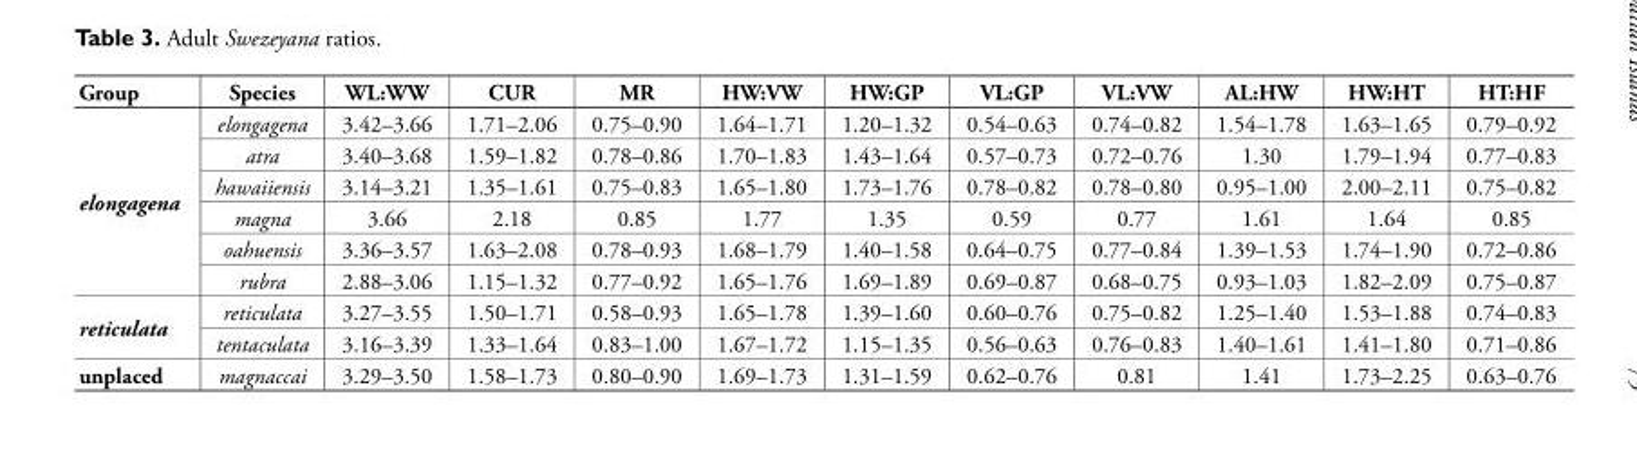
<table><thead><tr><td>Group</td><td>Species</td><td>WL:WW</td><td>CUR</td><td>MR</td><td>HW:VW</td><td>HW:GP</td><td>VL:GP</td><td>VL:VW</td><td>AL:HW</td><td>HW:HT</td><td>HT:HF</td></tr></thead><tbody><tr><td rowspan="6">elongagena</td><td>elongagena</td><td>3.42–3.66</td><td>1.71–2.06</td><td>0.75–0.90</td><td>1.64–1.71</td><td>1.20–1.32</td><td>0.54–0.63</td><td>0.74–0.82</td><td>1.54–1.78</td><td>1.63–1.65</td><td>0.79–0.92</td></tr><tr><td>atra</td><td>3.40–3.68</td><td>1.59–1.82</td><td>0.78–0.86</td><td>1.70–1.83</td><td>1.43–1.64</td><td>0.57–0.73</td><td>0.72–0.76</td><td>1.30</td><td>1.79–1.94</td><td>0.77–0.83</td></tr><tr><td>hawaiiensis</td><td>3.14–3.21</td><td>1.35–1.61</td><td>0.75–0.83</td><td>1.65–1.80</td><td>1.73–1.76</td><td>0.78–0.82</td><td>0.78–0.80</td><td>0.95–1.00</td><td>2.00–2.11</td><td>0.75–0.82</td></tr><tr><td>magna</td><td>3.66</td><td>2.18</td><td>0.85</td><td>1.77</td><td>1.35</td><td>0.59</td><td>0.77</td><td>1.61</td><td>1.64</td><td>0.85</td></tr><tr><td>oahuensis</td><td>3.36–3.57</td><td>1.63–2.08</td><td>0.78–0.93</td><td>1.68–1.79</td><td>1.40–1.58</td><td>0.64–0.75</td><td>0.77–0.84</td><td>1.39–1.53</td><td>1.74–1.90</td><td>0.72–0.86</td></tr><tr><td>rubra</td><td>2.88–3.06</td><td>1.15–1.32</td><td>0.77–0.92</td><td>1.65–1.76</td><td>1.69–1.89</td><td>0.69–0.87</td><td>0.68–0.75</td><td>0.93–1.03</td><td>1.82–2.09</td><td>0.75–0.87</td></tr><tr><td rowspan="2">reticulata</td><td>reticulata</td><td>3.27–3.55</td><td>1.50–1.71</td><td>0.58–0.93</td><td>1.65–1.78</td><td>1.39–1.60</td><td>0.60–0.76</td><td>0.75–0.82</td><td>1.25–1.40</td><td>1.53–1.88</td><td>0.74–0.83</td></tr><tr><td>tentaculata</td><td>3.16–3.39</td><td>1.33–1.64</td><td>0.83–1.00</td><td>1.67–1.72</td><td>1.15–1.35</td><td>0.56–0.63</td><td>0.76–0.83</td><td>1.40–1.61</td><td>1.41–1.80</td><td>0.71–0.86</td></tr><tr><td>unplaced</td><td>magnaccai</td><td>3.29–3.50</td><td>1.58–1.73</td><td>0.80–0.90</td><td>1.69–1.73</td><td>1.31–1.59</td><td>0.62–0.76</td><td>0.81</td><td>1.41</td><td>1.73–2.25</td><td>0.63–0.76</td></tr></tbody></table>